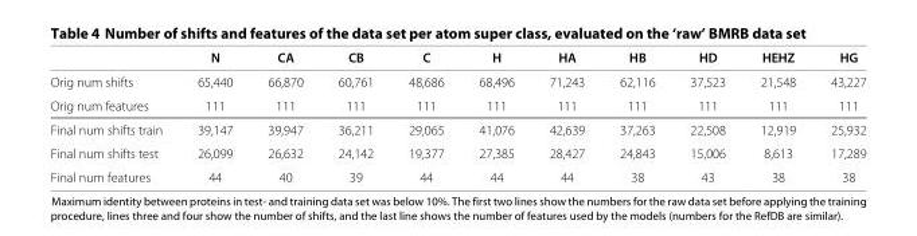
<table><thead><tr><td></td><td>N</td><td>CA</td><td>CB</td><td>C</td><td>H</td><td>HA</td><td>HB</td><td>HD</td><td>HEHZ</td><td>HG</td></tr></thead><tbody><tr><td>Orig num shifts</td><td>65,440</td><td>66,870</td><td>60,761</td><td>48,686</td><td>68,496</td><td>71,243</td><td>62,116</td><td>37,523</td><td>21,548</td><td>43,227</td></tr><tr><td>Orig num features</td><td>111</td><td>111</td><td>111</td><td>111</td><td>111</td><td>111</td><td>111</td><td>111</td><td>111</td><td>111</td></tr><tr><td>Final num shifts train</td><td>39,147</td><td>39,947</td><td>36,211</td><td>29,065</td><td>41,076</td><td>42,639</td><td>37,263</td><td>22,508</td><td>12,919</td><td>25,932</td></tr><tr><td>Final num shifts test</td><td>26,099</td><td>26,632</td><td>24,142</td><td>19,377</td><td>27,385</td><td>28,427</td><td>24,843</td><td>15,006</td><td>8,613</td><td>17,289</td></tr><tr><td>Final num features</td><td>44</td><td>40</td><td>39</td><td>44</td><td>44</td><td>44</td><td>38</td><td>43</td><td>38</td><td>38</td></tr></tbody></table>